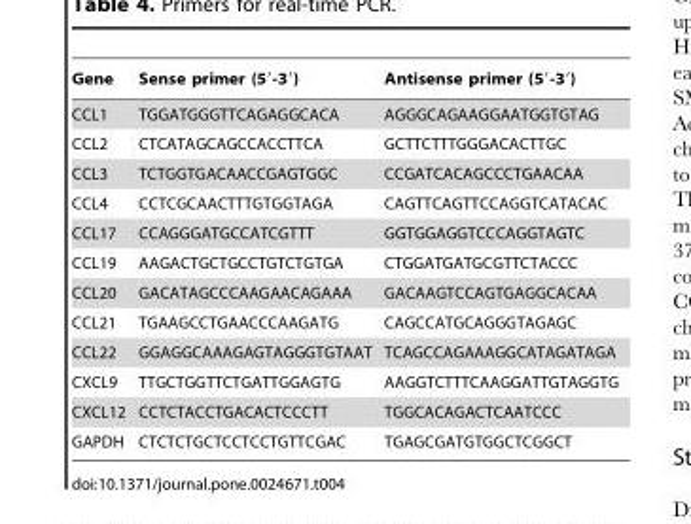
<table><thead><tr><td>Gene</td><td>Sense primer (5′-3′)</td><td>Antisense primer (5′-3′)</td></tr></thead><tbody><tr><td>CCL1</td><td>TGGATGGGTTCAGAGGCACA</td><td>AGGGCAGAAGGAATGGTGTAG</td></tr><tr><td>CCL2</td><td>CTCATAGCAGCCACCTTCA</td><td>GCTTCTTTGGGACACTTGC</td></tr><tr><td>CCL3</td><td>TCTGGTGACAACCGAGTGGC</td><td>CCGATCACAGCCCTGAACAA</td></tr><tr><td>CCL4</td><td>CCTCGCAACTTTGTGGTAGA</td><td>CAGTTCAGTTCCAGGTCATACAC</td></tr><tr><td>CCL17</td><td>CCAGGGATGCCATCGTTT</td><td>GGTGGAGGTCCCAGGTAGTC</td></tr><tr><td>CCL19</td><td>AAGACTGCTGCCTGTCTGTGA</td><td>CTGGATGATGCGTTCTACCC</td></tr><tr><td>CCL20</td><td>GACATAGCCCAAGAACAGAAA</td><td>GACAAGTCCAGTGAGGCACAA</td></tr><tr><td>CCL21</td><td>TGAAGCCTGAACCCAAGATG</td><td>CAGCCATGCAGGGTAGAGC</td></tr><tr><td>CCL22</td><td>GGAGGCAAAGAGTAGGGTGTAAT</td><td>TCAGCCAGAAAGGCATAGATAGA</td></tr><tr><td>CXCL9</td><td>TTGCTGGTTCTGATTGGAGTG</td><td>AAGGTCTTTCAAGGATTGTAGGTG</td></tr><tr><td>CXCL12</td><td>CCTCTACCTGACACTCCCTT</td><td>TGGCACAGACTCAATCCC</td></tr><tr><td>GAPDH</td><td>CTCTCTGCTCCTCCTGTTCGAC</td><td>TGAGCGATGTGGCTCGGCT</td></tr></tbody></table>